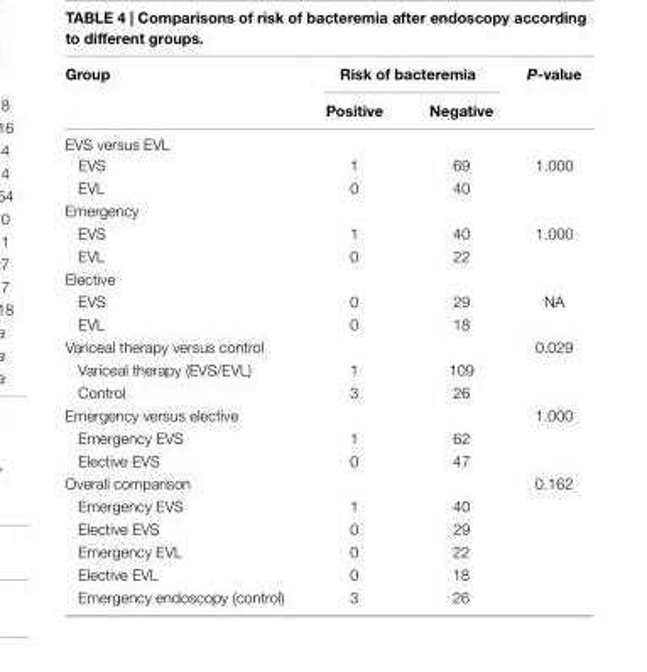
<table><thead><tr><td rowspan="2">group</td><td colspan="2">risk of bacteremia</td><td rowspan="2">P-value</td></tr><tr><td>Positive</td><td>negative</td></tr></thead><tbody><tr><td colspan="4">EVS versus EVL</td></tr><tr><td>EVS</td><td>1</td><td>69</td><td>1.000</td></tr><tr><td>EVL</td><td>0</td><td>40</td><td></td></tr><tr><td colspan="4">Emergency</td></tr><tr><td>EVS</td><td>1</td><td>40</td><td>1.000</td></tr><tr><td>EVL</td><td>0</td><td>22</td><td></td></tr><tr><td colspan="4">Elective</td></tr><tr><td>EVS</td><td>0</td><td>29</td><td>NA</td></tr><tr><td>EVL</td><td>0</td><td>18</td><td></td></tr><tr><td>Variceal therapy versus control</td><td></td><td></td><td>0.029</td></tr><tr><td>Variceal therapy (EVS/EVL)</td><td>1</td><td>109</td><td></td></tr><tr><td>Control</td><td>3</td><td>26</td><td></td></tr><tr><td>Emergency versus elective</td><td></td><td></td><td>1.000</td></tr><tr><td>Emergency EVS</td><td>1</td><td>62</td><td></td></tr><tr><td>Elective EVS</td><td>0</td><td>47</td><td></td></tr><tr><td>Overall comparison</td><td></td><td></td><td>0.162</td></tr><tr><td>Emergency EVS</td><td>1</td><td>40</td><td></td></tr><tr><td>Elective EVS</td><td>0</td><td>29</td><td></td></tr><tr><td>Emergency EVL</td><td>0</td><td>22</td><td></td></tr><tr><td>Elective EVL</td><td>0</td><td>18</td><td></td></tr><tr><td>Emergency endoscopy (control)</td><td>3</td><td>26</td><td></td></tr></tbody></table>